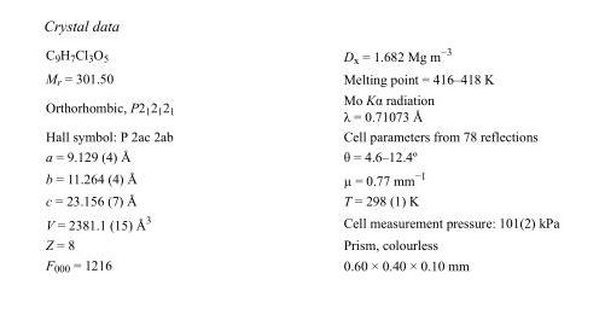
<table><tbody><tr><td>C<sub>9</sub>H<sub>7</sub>Cl<sub>3</sub>O<sub>5</sub></td><td>D<sub>x</sub> = 1.682 Mg m<sup>−3</sup></td></tr><tr><td>M<sub>r</sub> = 301.50</td><td>Melting point = 416–418 K</td></tr><tr><td>Orthorhombic, P2<sub>1</sub>2<sub>1</sub>2<sub>1</sub></td><td>Mo Kα radiation λ = 0.71073 Å</td></tr><tr><td>Hall symbol: P 2ac 2ab</td><td>Cell parameters from 78 reflections</td></tr><tr><td>a = 9.129 (4) Å</td><td>θ = 4.6–12.4º</td></tr><tr><td>b = 11.264 (4) Å</td><td>µ = 0.77 mm<sup>−1</sup></td></tr><tr><td>c = 23.156 (7) Å</td><td>T = 298 (1) K</td></tr><tr><td>V = 2381.1 (15) Å<sup>3</sup></td><td>Cell measurement pressure: 101(2) kPa</td></tr><tr><td>Z = 8</td><td>Prism, colourless</td></tr><tr><td>F<sub>000</sub> = 1216</td><td>0.60 × 0.40 × 0.10 mm</td></tr></tbody></table>